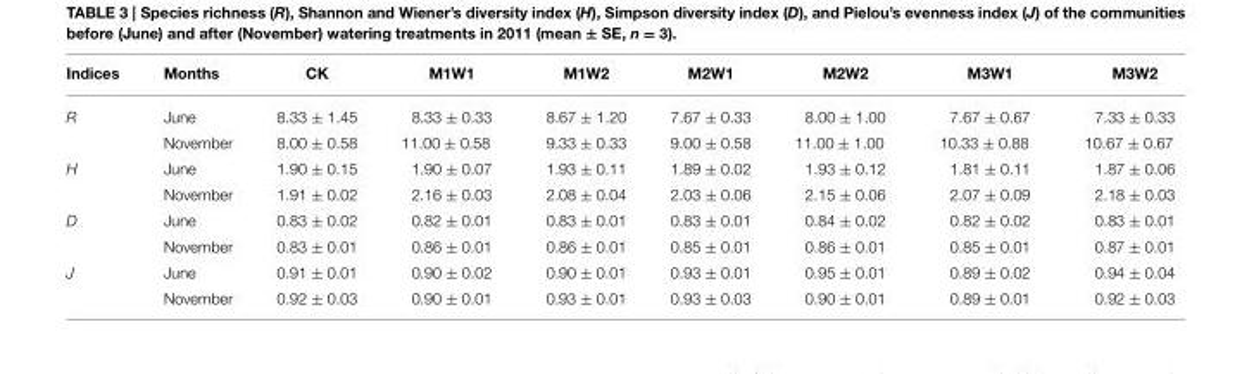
<table><thead><tr><td>Indices</td><td>Months</td><td>CK</td><td>M1W1</td><td>M1W2</td><td>M2W1</td><td>M2W2</td><td>M3W1</td><td>M3W2</td></tr></thead><tbody><tr><td rowspan="2">R</td><td>June</td><td>8.33 ± 1.45</td><td>8.33 ± 0.33</td><td>8.67 ± 1.20</td><td>7.67 ± 0.33</td><td>8.00 ± 1.00</td><td>7.67 ± 0.67</td><td>7.33 ± 0.33</td></tr><tr><td>November</td><td>8.00 ± 0.58</td><td>11.00 ± 0.58</td><td>9.33 ± 0.33</td><td>9.00 ± 0.58</td><td>11.00 ± 1.00</td><td>10.33 ± 0.88</td><td>10.67 ± 0.67</td></tr><tr><td rowspan="2">H</td><td>June</td><td>1.90 ± 0.15</td><td>1.90 ± 0.07</td><td>1.93 ± 0.11</td><td>1.89 ± 0.02</td><td>1.93 ± 0.12</td><td>1.81 ± 0.11</td><td>1.87 ± 0.06</td></tr><tr><td>November</td><td>1.91 ± 0.02</td><td>2.16 ± 0.03</td><td>2.08 ± 0.04</td><td>2.03 ± 0.06</td><td>2.15 ± 0.06</td><td>2.07 ± 0.09</td><td>2.18 ± 0.03</td></tr><tr><td rowspan="2">D</td><td>June</td><td>0.83 ± 0.02</td><td>0.82 ± 0.01</td><td>0.83 ± 0.01</td><td>0.83 ± 0.01</td><td>0.84 ± 0.02</td><td>0.82 ± 0.02</td><td>0.83 ± 0.01</td></tr><tr><td>November</td><td>0.83 ± 0.01</td><td>0.86 ± 0.01</td><td>0.86 ± 0.01</td><td>0.85 ± 0.01</td><td>0.86 ± 0.01</td><td>0.85 ± 0.01</td><td>0.87 ± 0.01</td></tr><tr><td rowspan="2">J</td><td>June</td><td>0.91 ± 0.01</td><td>0.90 ± 0.02</td><td>0.90 ± 0.01</td><td>0.93 ± 0.01</td><td>0.95 ± 0.01</td><td>0.89 ± 0.02</td><td>0.94 ± 0.04</td></tr><tr><td>November</td><td>0.92 ± 0.03</td><td>0.90 ± 0.01</td><td>0.93 ± 0.01</td><td>0.93 ± 0.03</td><td>0.90 ± 0.01</td><td>0.89 ± 0.01</td><td>0.92 ± 0.03</td></tr></tbody></table>